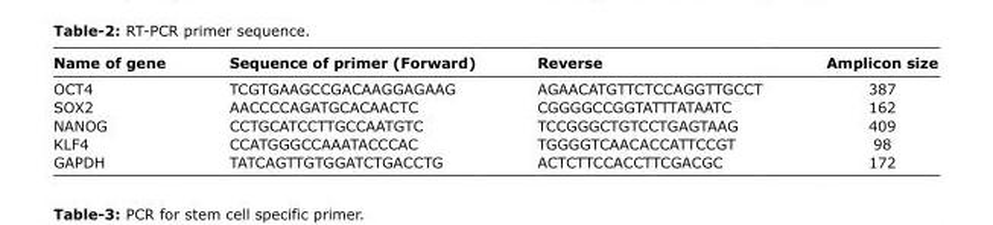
<table><thead><tr><td>Name of gene</td><td>Sequence of primer (Forward)</td><td>Reverse</td><td>Amplicon size</td></tr></thead><tbody><tr><td>OCT4</td><td>TCGTGAAGCCGACAAGGAGAAG</td><td>AGAACATGTTCTCCAGGTTGCCT</td><td>387</td></tr><tr><td>SOX2</td><td>AACCCCAGATGCACAACTC</td><td>CGGGGCCGGTATTTATAATC</td><td>162</td></tr><tr><td>NANOG</td><td>CCTGCATCCTTGCCAATGTC</td><td>TCCGGGCTGTCCTGAGTAAG</td><td>409</td></tr><tr><td>KLF4</td><td>CCATGGGCCAAATACCCAC</td><td>TGGGGTCAACACCATTCCGT</td><td>98</td></tr><tr><td>GAPDH</td><td>TATCAGTTGTGGATCTGACCTG</td><td>ACTCTTCCACCTTCGACGC</td><td>172</td></tr></tbody></table>